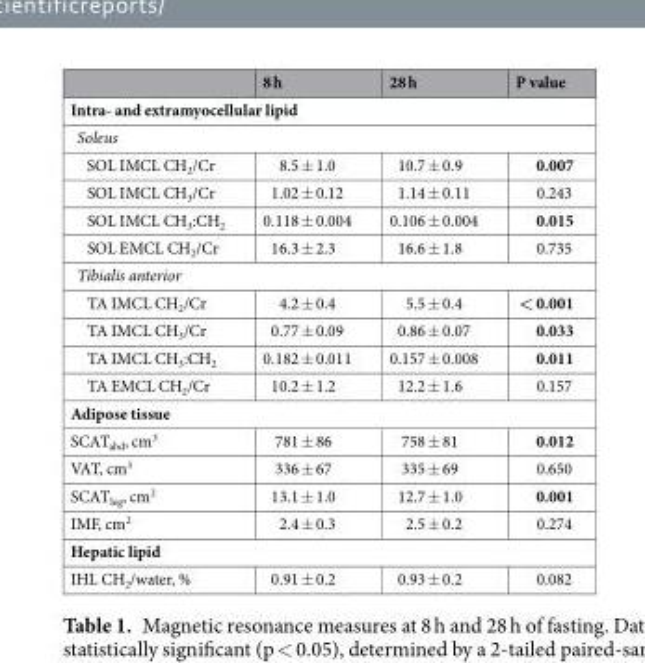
<table><thead><tr><td></td><td>8 h</td><td>28 h</td><td>P value</td></tr></thead><tbody><tr><td colspan="4">Intra- and extramyocellular lipid</td></tr><tr><td colspan="4">Soleus</td></tr><tr><td>SOL IMCL CH<sub>2</sub>/Cr</td><td>8.5 ± 1.0</td><td>10.7 ± 0.9</td><td>0.007</td></tr><tr><td>SOL IMCL CH<sub>3</sub>/Cr</td><td>1.02 ± 0.12</td><td>1.14 ± 0.11</td><td>0.243</td></tr><tr><td>SOL IMCL CH<sub>3</sub>:CH<sub>2</sub></td><td>0.118 ± 0.004</td><td>0.106 ± 0.004</td><td>0.015</td></tr><tr><td>SOL EMCL CH<sub>2</sub>/Cr</td><td>16.3 ± 2.3</td><td>16.6 ± 1.8</td><td>0.735</td></tr><tr><td colspan="4">Tibialis anterior</td></tr><tr><td>TA IMCL CH<sub>2</sub>/Cr</td><td>4.2 ± 0.4</td><td>5.5 ± 0.4</td><td>&lt; 0.001</td></tr><tr><td>TA IMCL CH<sub>3</sub>/Cr</td><td>0.77 ± 0.09</td><td>0.86 ± 0.07</td><td>0.033</td></tr><tr><td>TA IMCL CH<sub>3</sub>:CH<sub>2</sub></td><td>0.182 ± 0.011</td><td>0.157 ± 0.008</td><td>0.011</td></tr><tr><td>TA EMCL CH<sub>2</sub>/Cr</td><td>10.2 ± 1.2</td><td>12.2 ± 1.6</td><td>0.157</td></tr><tr><td colspan="4">Adipose tissue</td></tr><tr><td>SCAT<sub>abd</sub>, cm<sup>3</sup></td><td>781 ± 86</td><td>758 ± 81</td><td>0.012</td></tr><tr><td>VAT, cm<sup>3</sup></td><td>336 ± 67</td><td>335 ± 69</td><td>0.650</td></tr><tr><td>SCAT<sub>leg</sub>, cm<sup>2</sup></td><td>13.1 ± 1.0</td><td>12.7 ± 1.0</td><td>0.001</td></tr><tr><td>IMF, cm<sup>2</sup></td><td>2.4 ± 0.3</td><td>2.5 ± 0.2</td><td>0.274</td></tr><tr><td colspan="4">Hepatic lipid</td></tr><tr><td>IHL CH<sub>2</sub>/water, %</td><td>0.91 ± 0.2</td><td>0.93 ± 0.2</td><td>0.082</td></tr></tbody></table>